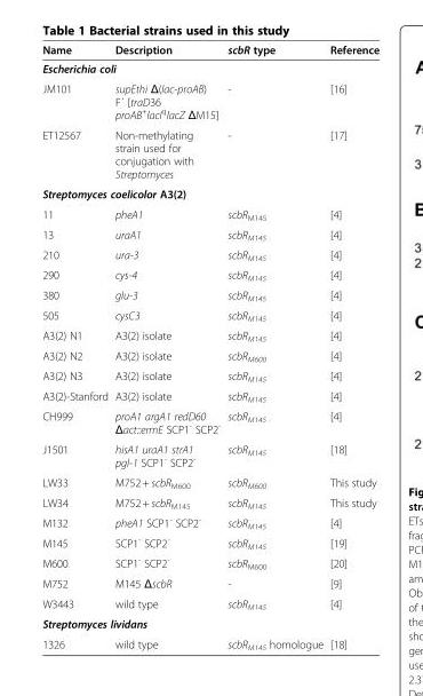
<table><thead><tr><td>Name</td><td>Description</td><td>scbR type</td><td>Reference</td></tr></thead><tbody><tr><td colspan="4">Escherichia coli</td></tr><tr><td>JM101</td><td>supEthi Δ(lac-proAB) F´ [traD36 proAB<sup>+</sup>lacI<sup>q</sup>lacZ ΔM15]</td><td>-</td><td>[16]</td></tr><tr><td>ET12567</td><td>Non-methylating strain used for conjugation with Streptomyces</td><td>-</td><td>[17]</td></tr><tr><td colspan="4">Streptomyces coelicolor A3(2)</td></tr><tr><td>11</td><td>pheA1</td><td>scbR<sub>M145</sub></td><td>[4]</td></tr><tr><td>13</td><td>uraA1</td><td>scbR<sub>M145</sub></td><td>[4]</td></tr><tr><td>210</td><td>ura-3</td><td>scbR<sub>M145</sub></td><td>[4]</td></tr><tr><td>290</td><td>cys-4</td><td>scbR<sub>M145</sub></td><td>[4]</td></tr><tr><td>380</td><td>glu-3</td><td>scbR<sub>M145</sub></td><td>[4]</td></tr><tr><td>505</td><td>cysC3</td><td>scbR<sub>M145</sub></td><td>[4]</td></tr><tr><td>A3(2) N1</td><td>A3(2) isolate</td><td>scbR<sub>M145</sub></td><td>[4]</td></tr><tr><td>A3(2) N2</td><td>A3(2) isolate</td><td>scbR<sub>M600</sub></td><td>[4]</td></tr><tr><td>A3(2) N3</td><td>A3(2) isolate</td><td>scbR<sub>M145</sub></td><td>[4]</td></tr><tr><td>A3(2)-Stanford</td><td>A3(2) isolate</td><td>scbR<sub>M145</sub></td><td>[4]</td></tr><tr><td>CH999</td><td>proA1 argA1 redD60 Δact::ermE SCP1<sup>-</sup> SCP2<sup>-</sup></td><td>scbR<sub>M145</sub></td><td>[4]</td></tr><tr><td>J1501</td><td>hisA1 uraA1 strA1 pgl-1 SCP1<sup>-</sup> SCP2<sup>-</sup></td><td>scbR<sub>M145</sub></td><td>[18]</td></tr><tr><td>LW33</td><td>M752 + scbR<sub>M600</sub></td><td>scbR<sub>M600</sub></td><td>This study</td></tr><tr><td>LW34</td><td>M752 + scbR<sub>M145</sub></td><td>scbR<sub>M145</sub></td><td>This study</td></tr><tr><td>M132</td><td>pheA1 SCP1<sup>-</sup> SCP2<sup>-</sup></td><td>scbR<sub>M145</sub></td><td>[4]</td></tr><tr><td>M145</td><td>SCP1<sup>-</sup> SCP2<sup>-</sup></td><td>scbR<sub>M145</sub></td><td>[19]</td></tr><tr><td>M600</td><td>SCP1<sup>-</sup> SCP2<sup>-</sup></td><td>scbR<sub>M600</sub></td><td>[20]</td></tr><tr><td>M752</td><td>M145 ΔscbR</td><td>-</td><td>[9]</td></tr><tr><td>W3443</td><td>wild type</td><td>scbR<sub>M145</sub></td><td>[4]</td></tr><tr><td colspan="4">Streptomyces lividans</td></tr><tr><td>1326</td><td>wild type</td><td>scbR<sub>M145</sub> homologue</td><td>[18]</td></tr></tbody></table>